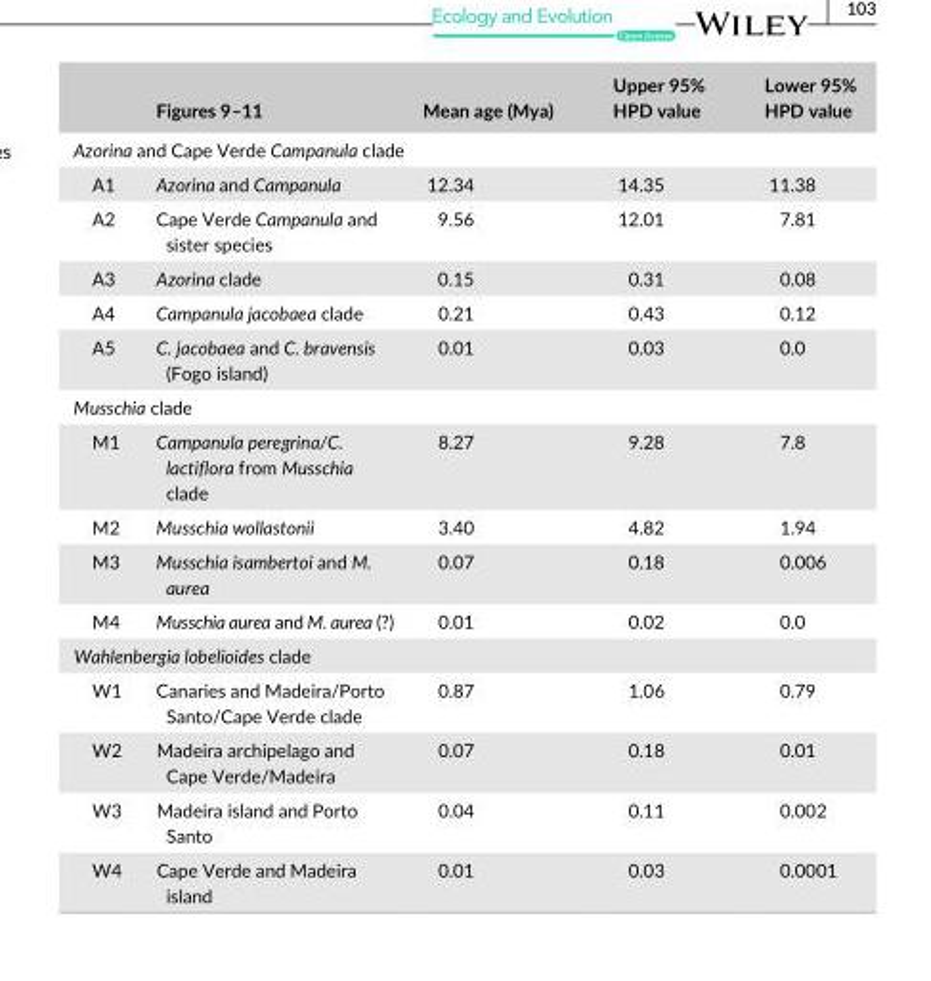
<table><thead><tr><td></td><td>Figures 9–11</td><td>Mean age (Mya)</td><td>Upper 95% HPD value</td><td>Lower 95% HPD value</td></tr></thead><tbody><tr><td colspan="5">Azorina and Cape Verde Campanula clade</td></tr><tr><td>A1</td><td>Azorina and Campanula</td><td>12.34</td><td>14.35</td><td>11.38</td></tr><tr><td>A2</td><td>Cape Verde Campanula and sister species</td><td>9.56</td><td>12.01</td><td>7.81</td></tr><tr><td>A3</td><td>Azorina clade</td><td>0.15</td><td>0.31</td><td>0.08</td></tr><tr><td>A4</td><td>Campanula jacobaea clade</td><td>0.21</td><td>0.43</td><td>0.12</td></tr><tr><td>A5</td><td>C. jacobaea and C. bravensis (Fogo island)</td><td>0.01</td><td>0.03</td><td>0.0</td></tr><tr><td colspan="5">Musschia clade</td></tr><tr><td>M1</td><td>Campanula peregrina/C. lactiflora from Musschia clade</td><td>8.27</td><td>9.28</td><td>7.8</td></tr><tr><td>M2</td><td>Musschia wollastonii</td><td>3.40</td><td>4.82</td><td>1.94</td></tr><tr><td>M3</td><td>Musschia isambertoi and M. aurea</td><td>0.07</td><td>0.18</td><td>0.006</td></tr><tr><td>M4</td><td>Musschia aurea and M. aurea (?)</td><td>0.01</td><td>0.02</td><td>0.0</td></tr><tr><td colspan="5">Wahlenbergia lobelioides clade</td></tr><tr><td>W1</td><td>Canaries and Madeira/Porto Santo/Cape Verde clade</td><td>0.87</td><td>1.06</td><td>0.79</td></tr><tr><td>W2</td><td>Madeira archipelago and Cape Verde/Madeira</td><td>0.07</td><td>0.18</td><td>0.01</td></tr><tr><td>W3</td><td>Madeira island and Porto Santo</td><td>0.04</td><td>0.11</td><td>0.002</td></tr><tr><td>W4</td><td>Cape Verde and Madeira island</td><td>0.01</td><td>0.03</td><td>0.0001</td></tr></tbody></table>